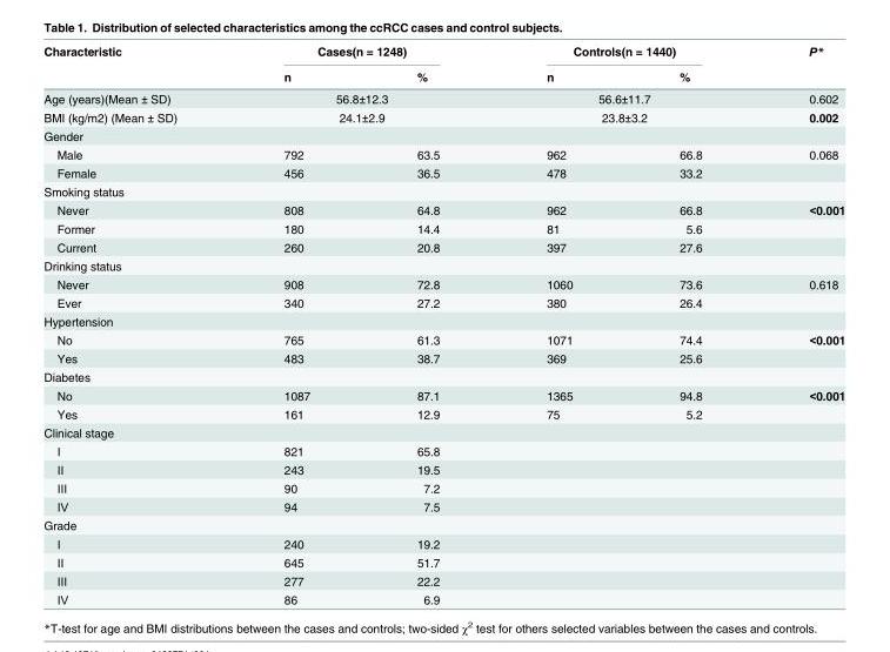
<table><thead><tr><td rowspan="2">Characteristic</td><td colspan="2">Cases(n = 1248)</td><td colspan="2">Controls(n = 1440)</td><td rowspan="2">P*</td></tr><tr><td>n</td><td>%</td><td>n</td><td>%</td></tr></thead><tbody><tr><td>Age (years)(Mean ± SD)</td><td colspan="2">56.8±12.3</td><td colspan="2">56.6±11.7</td><td>0.602</td></tr><tr><td>BMI (kg/m2) (Mean ± SD)</td><td colspan="2">24.1±2.9</td><td colspan="2">23.8±3.2</td><td>0.002</td></tr><tr><td colspan="6">Gender</td></tr><tr><td>Male</td><td>792</td><td>63.5</td><td>962</td><td>66.8</td><td>0.068</td></tr><tr><td>Female</td><td>456</td><td>36.5</td><td>478</td><td>33.2</td><td></td></tr><tr><td colspan="6">Smoking status</td></tr><tr><td>Never</td><td>808</td><td>64.8</td><td>962</td><td>66.8</td><td>&lt;0.001</td></tr><tr><td>Former</td><td>180</td><td>14.4</td><td>81</td><td>5.6</td><td></td></tr><tr><td>Current</td><td>260</td><td>20.8</td><td>397</td><td>27.6</td><td></td></tr><tr><td colspan="6">Drinking status</td></tr><tr><td>Never</td><td>908</td><td>72.8</td><td>1060</td><td>73.6</td><td>0.618</td></tr><tr><td>Ever</td><td>340</td><td>27.2</td><td>380</td><td>26.4</td><td></td></tr><tr><td colspan="6">Hypertension</td></tr><tr><td>No</td><td>765</td><td>61.3</td><td>1071</td><td>74.4</td><td>&lt;0.001</td></tr><tr><td>Yes</td><td>483</td><td>38.7</td><td>369</td><td>25.6</td><td></td></tr><tr><td colspan="6">Diabetes</td></tr><tr><td>No</td><td>1087</td><td>87.1</td><td>1365</td><td>94.8</td><td>&lt;0.001</td></tr><tr><td>Yes</td><td>161</td><td>12.9</td><td>75</td><td>5.2</td><td></td></tr><tr><td colspan="6">Clinical stage</td></tr><tr><td>Ⅰ</td><td>821</td><td>65.8</td><td></td><td></td><td></td></tr><tr><td>Ⅱ</td><td>243</td><td>19.5</td><td></td><td></td><td></td></tr><tr><td>Ⅲ</td><td>90</td><td>7.2</td><td></td><td></td><td></td></tr><tr><td>Ⅳ</td><td>94</td><td>7.5</td><td></td><td></td><td></td></tr><tr><td colspan="6">Grade</td></tr><tr><td>Ⅰ</td><td>240</td><td>19.2</td><td></td><td></td><td></td></tr><tr><td>Ⅱ</td><td>645</td><td>51.7</td><td></td><td></td><td></td></tr><tr><td>Ⅲ</td><td>277</td><td>22.2</td><td></td><td></td><td></td></tr><tr><td>Ⅳ</td><td>86</td><td>6.9</td><td></td><td></td><td></td></tr></tbody></table>